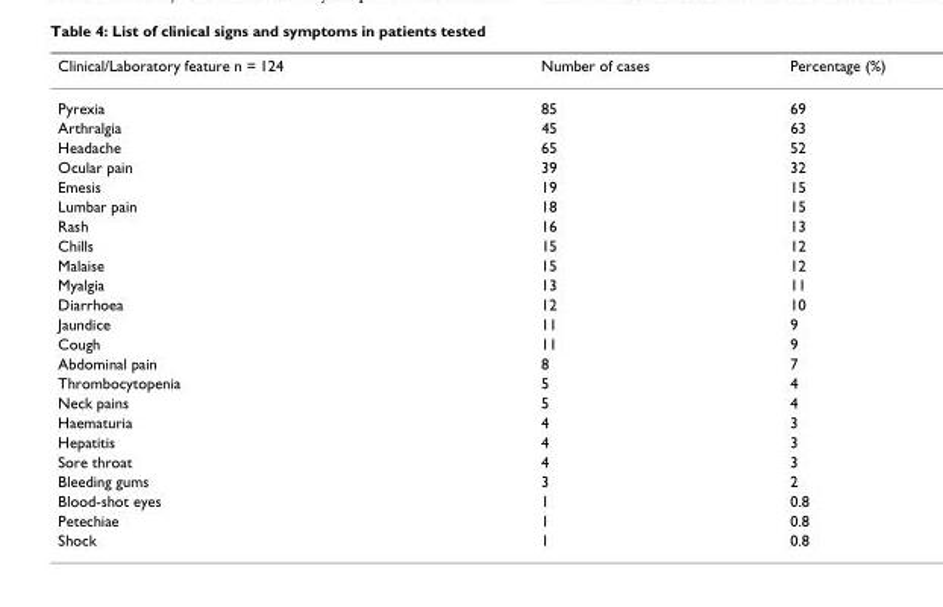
<table><thead><tr><td>Clinical/Laboratory feature n = 124</td><td>Number of cases</td><td>Percentage (%)</td></tr></thead><tbody><tr><td>Pyrexia</td><td>85</td><td>69</td></tr><tr><td>Arthralgia</td><td>45</td><td>63</td></tr><tr><td>Headache</td><td>65</td><td>52</td></tr><tr><td>Ocular pain</td><td>39</td><td>32</td></tr><tr><td>Emesis</td><td>19</td><td>15</td></tr><tr><td>Lumbar pain</td><td>18</td><td>15</td></tr><tr><td>Rash</td><td>16</td><td>13</td></tr><tr><td>Chills</td><td>15</td><td>12</td></tr><tr><td>Malaise</td><td>15</td><td>12</td></tr><tr><td>Myalgia</td><td>13</td><td>11</td></tr><tr><td>Diarrhoea</td><td>12</td><td>10</td></tr><tr><td>Jaundice</td><td>11</td><td>9</td></tr><tr><td>Cough</td><td>11</td><td>9</td></tr><tr><td>Abdominal pain</td><td>8</td><td>7</td></tr><tr><td>Thrombocytopenia</td><td>5</td><td>4</td></tr><tr><td>Neck pains</td><td>5</td><td>4</td></tr><tr><td>Haematuria</td><td>4</td><td>3</td></tr><tr><td>Hepatitis</td><td>4</td><td>3</td></tr><tr><td>Sore throat</td><td>4</td><td>3</td></tr><tr><td>Bleeding gums</td><td>3</td><td>2</td></tr><tr><td>Blood-shot eyes</td><td>1</td><td>0.8</td></tr><tr><td>Petechiae</td><td>1</td><td>0.8</td></tr><tr><td>Shock</td><td>1</td><td>0.8</td></tr></tbody></table>